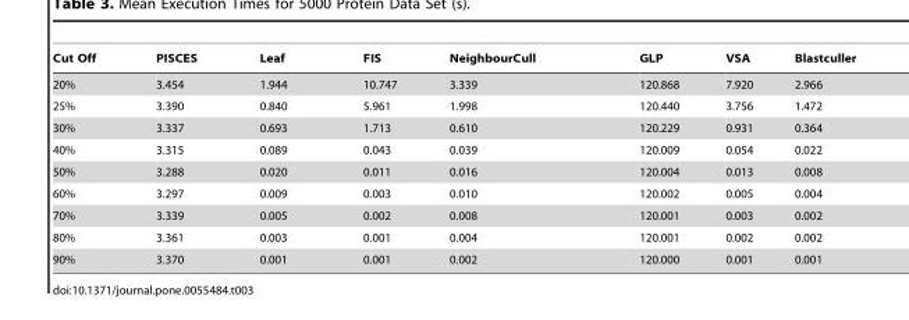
<table><thead><tr><td>Cut Off</td><td>PISCES</td><td>Leaf</td><td>FIS</td><td>NeighbourCull</td><td>GLP</td><td>VSA</td><td>Blastculler</td></tr></thead><tbody><tr><td>20%</td><td>3.454</td><td>1.944</td><td>10.747</td><td>3.339</td><td>120.868</td><td>7.920</td><td>2.966</td></tr><tr><td>25%</td><td>3.390</td><td>0.840</td><td>5.961</td><td>1.998</td><td>120.440</td><td>3.756</td><td>1.472</td></tr><tr><td>30%</td><td>3.337</td><td>0.693</td><td>1.713</td><td>0.610</td><td>120.229</td><td>0.931</td><td>0.364</td></tr><tr><td>40%</td><td>3.315</td><td>0.089</td><td>0.043</td><td>0.039</td><td>120.009</td><td>0.054</td><td>0.022</td></tr><tr><td>50%</td><td>3.288</td><td>0.020</td><td>0.011</td><td>0.016</td><td>120.004</td><td>0.013</td><td>0.008</td></tr><tr><td>60%</td><td>3.297</td><td>0.009</td><td>0.003</td><td>0.010</td><td>120.002</td><td>0.005</td><td>0.004</td></tr><tr><td>70%</td><td>3.339</td><td>0.005</td><td>0.002</td><td>0.008</td><td>120.001</td><td>0.003</td><td>0.002</td></tr><tr><td>80%</td><td>3.361</td><td>0.003</td><td>0.001</td><td>0.004</td><td>120.001</td><td>0.002</td><td>0.002</td></tr><tr><td>90%</td><td>3.370</td><td>0.001</td><td>0.001</td><td>0.002</td><td>120.000</td><td>0.001</td><td>0.001</td></tr></tbody></table>